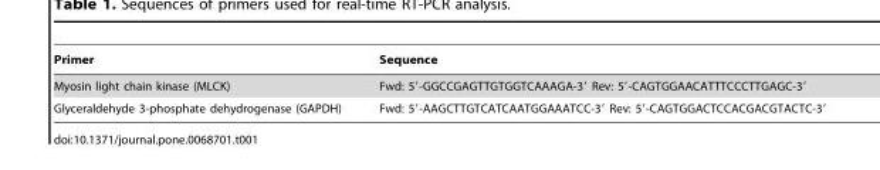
<table><thead><tr><td>Primer</td><td>Sequence</td></tr></thead><tbody><tr><td>Myosin light chain kinase (MLCK)</td><td>Fwd: 5′-GGCCGAGTTGTGGTCAAAGA-3′ Rev: 5′-CAGTGGAACATTTCCCTTGAGC-3′</td></tr><tr><td>Glyceraldehyde 3-phosphate dehydrogenase (GAPDH)</td><td>Fwd: 5′-AAGCTTGTCATCAATGGAAATCC-3′ Rev: 5′-CAGTGGACTCCACGACGTACTC-3′</td></tr></tbody></table>